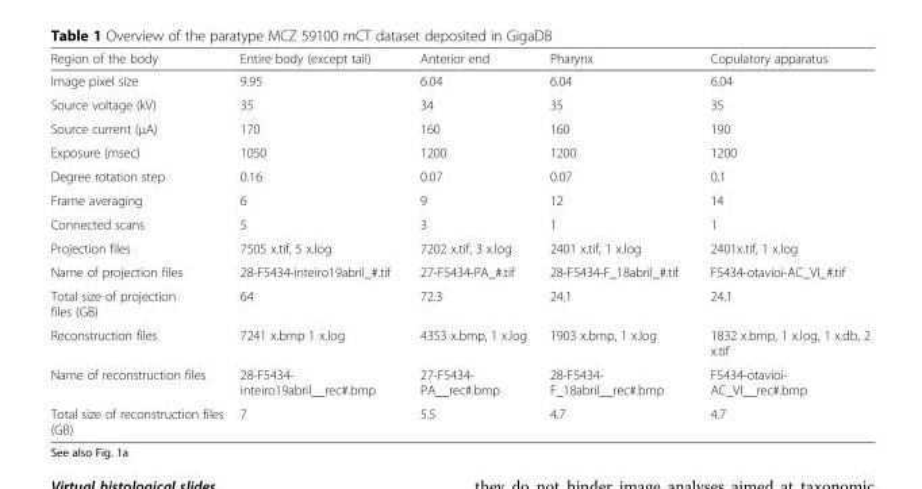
<table><thead><tr><td>Region of the body</td><td>Entire body (except tail)</td><td>Anterior end</td><td>Pharynx</td><td>Copulatory apparatus</td></tr></thead><tbody><tr><td>Image pixel size</td><td>9.95</td><td>6.04</td><td>6.04</td><td>6.04</td></tr><tr><td>Source voltage (kV)</td><td>35</td><td>34</td><td>35</td><td>35</td></tr><tr><td>Source current (μA)</td><td>170</td><td>160</td><td>160</td><td>190</td></tr><tr><td>Exposure (msec)</td><td>1050</td><td>1200</td><td>1200</td><td>1200</td></tr><tr><td>Degree rotation step</td><td>0.16</td><td>0.07</td><td>0.07</td><td>0.1</td></tr><tr><td>Frame averaging</td><td>6</td><td>9</td><td>12</td><td>14</td></tr><tr><td>Connected scans</td><td>5</td><td>3</td><td>1</td><td>1</td></tr><tr><td>Projection files</td><td>7505 x.tif, 5 x.log</td><td>7202 x.tif, 3 x.log</td><td>2401 x.tif, 1 x.log</td><td>2401x.tif, 1 x.log</td></tr><tr><td>Name of projection files</td><td>28-F5434-inteiro19abril_#.tif</td><td>27-F5434-PA_#.tif</td><td>28-F5434-F_18abril_#.tif</td><td>F5434-otavioi-AC_VI_#.tif</td></tr><tr><td>Total size of projection files (GB)</td><td>64</td><td>72.3</td><td>24.1</td><td>24.1</td></tr><tr><td>Reconstruction files</td><td>7241 x.bmp 1 x.log</td><td>4353 x.bmp, 1 x.log</td><td>1903 x.bmp, 1 x.log</td><td>1832 x.bmp, 1 x.log, 1 x.db, 2 x.tif</td></tr><tr><td>Name of reconstruction files</td><td>28-F5434- inteiro19abril__rec#.bmp</td><td>27-F5434- PA__rec#.bmp</td><td>28-F5434- F_18abril__rec#.bmp</td><td>F5434-otavioi- AC_VI__rec#.bmp</td></tr><tr><td>Total size of reconstruction files (GB)</td><td>7</td><td>5.5</td><td>4.7</td><td>4.7</td></tr></tbody></table>